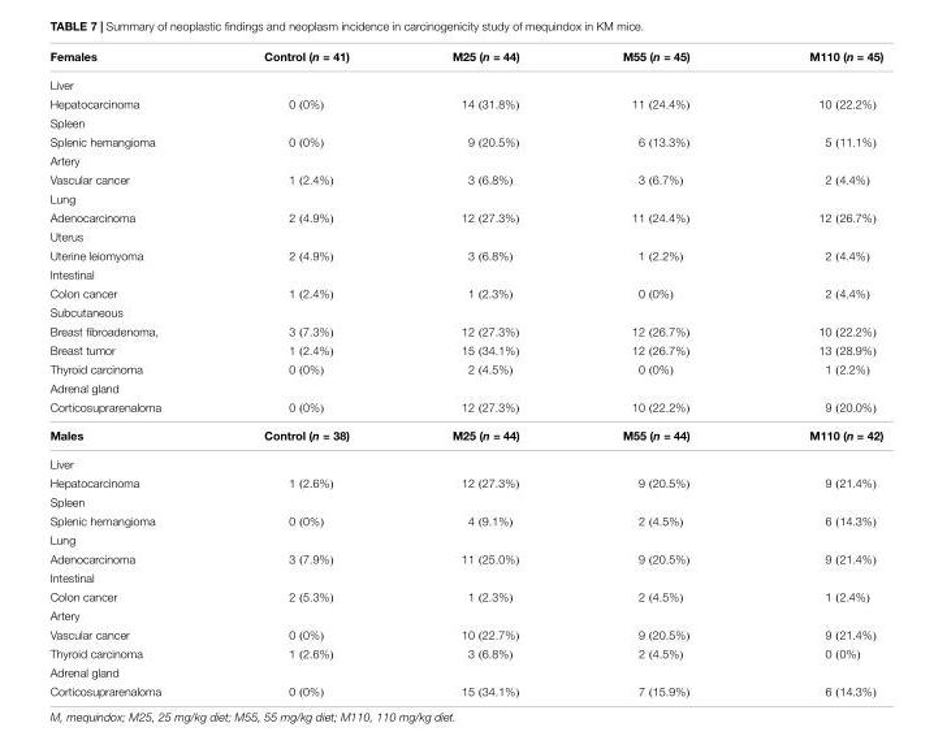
<table><thead><tr><td>Females</td><td>Control (n = 41)</td><td>M25 (n = 44)</td><td>M55 (n = 45)</td><td>M110 (n = 45)</td></tr></thead><tbody><tr><td colspan="5">Liver</td></tr><tr><td>Hepatocarcinoma</td><td>0 (0%)</td><td>14 (31.8%)</td><td>11 (24.4%)</td><td>10 (22.2%)</td></tr><tr><td colspan="5">Spleen</td></tr><tr><td>Splenic hemangioma</td><td>0 (0%)</td><td>9 (20.5%)</td><td>6 (13.3%)</td><td>5 (11.1%)</td></tr><tr><td colspan="5">Artery</td></tr><tr><td>Vascular cancer</td><td>1 (2.4%)</td><td>3 (6.8%)</td><td>3 (6.7%)</td><td>2 (4.4%)</td></tr><tr><td colspan="5">Lung</td></tr><tr><td>Adenocarcinoma</td><td>2 (4.9%)</td><td>12 (27.3%)</td><td>11 (24.4%)</td><td>12 (26.7%)</td></tr><tr><td colspan="5">Uterus</td></tr><tr><td>Uterine leiomyoma</td><td>2 (4.9%)</td><td>3 (6.8%)</td><td>1 (2.2%)</td><td>2 (4.4%)</td></tr><tr><td colspan="5">Intestinal</td></tr><tr><td>Colon cancer</td><td>1 (2.4%)</td><td>1 (2.3%)</td><td>0 (0%)</td><td>2 (4.4%)</td></tr><tr><td colspan="5">Subcutaneous</td></tr><tr><td>Breast fibroadenoma,</td><td>3 (7.3%)</td><td>12 (27.3%)</td><td>12 (26.7%)</td><td>10 (22.2%)</td></tr><tr><td>Breast tumor</td><td>1 (2.4%)</td><td>15 (34.1%)</td><td>12 (26.7%)</td><td>13 (28.9%)</td></tr><tr><td>Thyroid carcinoma</td><td>0 (0%)</td><td>2 (4.5%)</td><td>0 (0%)</td><td>1 (2.2%)</td></tr><tr><td colspan="5">Adrenal gland</td></tr><tr><td>Corticosuprarenaloma</td><td>0 (0%)</td><td>12 (27.3%)</td><td>10 (22.2%)</td><td>9 (20.0%)</td></tr><tr><td>Males</td><td>Control (n = 38)</td><td>M25 (n = 44)</td><td>M55 (n = 44)</td><td>M110 (n = 42)</td></tr><tr><td colspan="5">Liver</td></tr><tr><td>Hepatocarcinoma</td><td>1 (2.6%)</td><td>12 (27.3%)</td><td>9 (20.5%)</td><td>9 (21.4%)</td></tr><tr><td colspan="5">Spleen</td></tr><tr><td>Splenic hemangioma</td><td>0 (0%)</td><td>4 (9.1%)</td><td>2 (4.5%)</td><td>6 (14.3%)</td></tr><tr><td colspan="5">Lung</td></tr><tr><td>Adenocarcinoma</td><td>3 (7.9%)</td><td>11 (25.0%)</td><td>9 (20.5%)</td><td>9 (21.4%)</td></tr><tr><td colspan="5">Intestinal</td></tr><tr><td>Colon cancer</td><td>2 (5.3%)</td><td>1 (2.3%)</td><td>2 (4.5%)</td><td>1 (2.4%)</td></tr><tr><td colspan="5">Artery</td></tr><tr><td>Vascular cancer</td><td>0 (0%)</td><td>10 (22.7%)</td><td>9 (20.5%)</td><td>9 (21.4%)</td></tr><tr><td>Thyroid carcinoma</td><td>1 (2.6%)</td><td>3 (6.8%)</td><td>2 (4.5%)</td><td>0 (0%)</td></tr><tr><td colspan="5">Adrenal gland</td></tr><tr><td>Corticosuprarenaloma</td><td>0 (0%)</td><td>15 (34.1%)</td><td>7 (15.9%)</td><td>6 (14.3%)</td></tr></tbody></table>